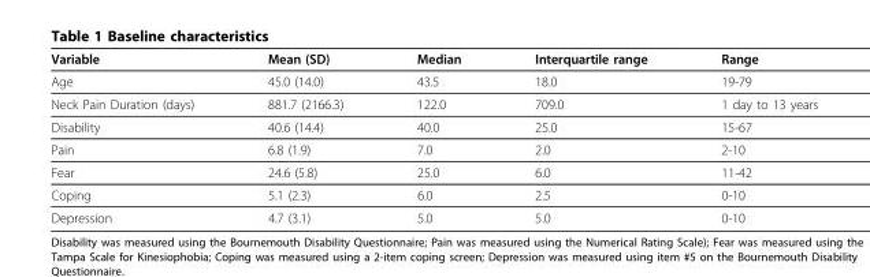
<table><thead><tr><td>Variable</td><td>Mean (SD)</td><td>Median</td><td>Interquartile range</td><td>Range</td></tr></thead><tbody><tr><td>Age</td><td>45.0 (14.0)</td><td>43.5</td><td>18.0</td><td>19-79</td></tr><tr><td>Neck Pain Duration (days)</td><td>881.7 (2166.3)</td><td>122.0</td><td>709.0</td><td>1 day to 13 years</td></tr><tr><td>Disability</td><td>40.6 (14.4)</td><td>40.0</td><td>25.0</td><td>15-67</td></tr><tr><td>Pain</td><td>6.8 (1.9)</td><td>7.0</td><td>2.0</td><td>2-10</td></tr><tr><td>Fear</td><td>24.6 (5.8)</td><td>25.0</td><td>6.0</td><td>11-42</td></tr><tr><td>Coping</td><td>5.1 (2.3)</td><td>6.0</td><td>2.5</td><td>0-10</td></tr><tr><td>Depression</td><td>4.7 (3.1)</td><td>5.0</td><td>5.0</td><td>0-10</td></tr></tbody></table>